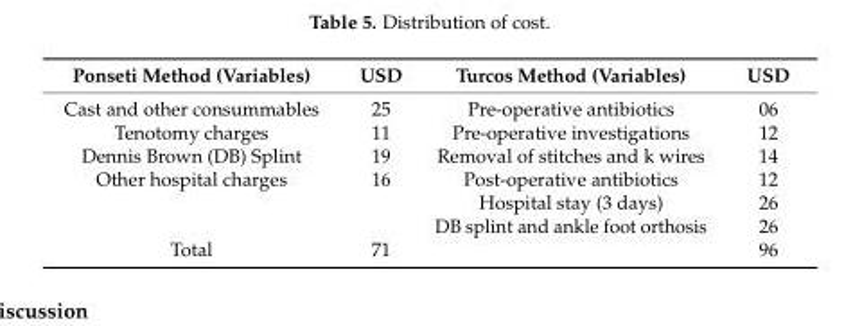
<table><thead><tr><td>Ponseti Method (Variables)</td><td>USD</td><td>Turcos Method (Variables)</td><td>USD</td></tr></thead><tbody><tr><td>Cast and other consummables</td><td>25</td><td>Pre-operative antibiotics</td><td>06</td></tr><tr><td>Tenotomy charges</td><td>11</td><td>Pre-operative investigations</td><td>12</td></tr><tr><td>Dennis Brown (DB) Splint</td><td>19</td><td>Removal of stitches and k wires</td><td>14</td></tr><tr><td rowspan="3">Other hospital charges</td><td>16</td><td>Post-operative antibiotics</td><td>12</td></tr><tr><td></td><td>Hospital stay (3 days)</td><td>26</td></tr><tr><td></td><td>DB splint and ankle foot orthosis</td><td>26</td></tr><tr><td>Total</td><td>71</td><td></td><td>96</td></tr></tbody></table>